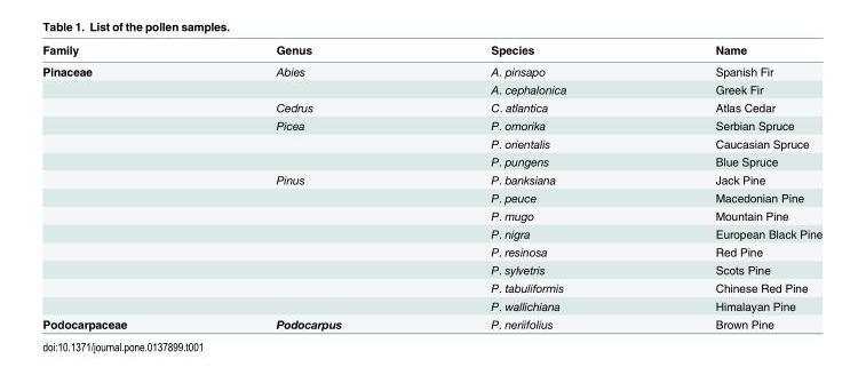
<table><thead><tr><td>Family</td><td>Genus</td><td>Species</td><td>Name</td></tr></thead><tbody><tr><td rowspan="14">Pinaceae</td><td>Abies</td><td>A. pinsapo</td><td>Spanish Fir</td></tr><tr><td></td><td>A. cephalonica</td><td>Greek Fir</td></tr><tr><td>Cedrus</td><td>C. atlantica</td><td>Atlas Cedar</td></tr><tr><td>Picea</td><td>P. omorika</td><td>Serbian Spruce</td></tr><tr><td></td><td>P. orientalis</td><td>Caucasian Spruce</td></tr><tr><td></td><td>P. pungens</td><td>Blue Spruce</td></tr><tr><td>Pinus</td><td>P. banksiana</td><td>Jack Pine</td></tr><tr><td></td><td>P. peuce</td><td>Macedonian Pine</td></tr><tr><td></td><td>P. mugo</td><td>Mountain Pine</td></tr><tr><td></td><td>P. nigra</td><td>European Black Pine</td></tr><tr><td></td><td>P. resinosa</td><td>Red Pine</td></tr><tr><td></td><td>P. sylvetris</td><td>Scots Pine</td></tr><tr><td></td><td>P. tabuliformis</td><td>Chinese Red Pine</td></tr><tr><td></td><td>P. wallichiana</td><td>Himalayan Pine</td></tr><tr><td>Podocarpaceae</td><td>Podocarpus</td><td>P. neriifolius</td><td>Brown Pine</td></tr></tbody></table>